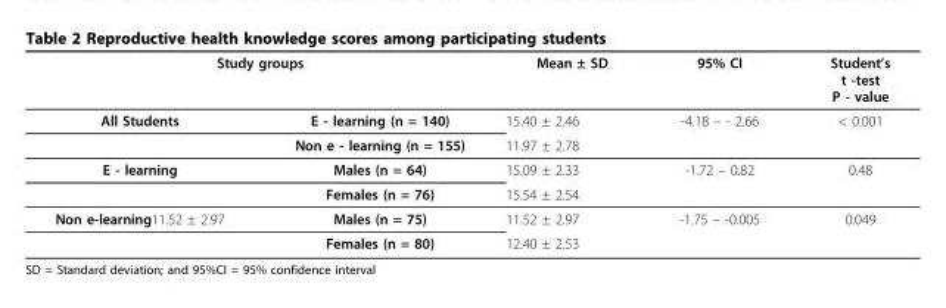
<table><thead><tr><td colspan="2">Study groups</td><td rowspan="2">Mean ± SD 15.40 ± 2.46</td><td rowspan="2">95% CI -4.18 – - 2.66</td><td rowspan="2">Student’s t -test P - value &lt; 0.001</td></tr><tr><td>All Students</td><td>E - learning (n = 140)</td></tr></thead><tbody><tr><td></td><td>Non e - learning (n = 155)</td><td>11.97 ± 2.78</td><td></td><td></td></tr><tr><td rowspan="2">E - learning</td><td>Males (n = 64)</td><td>15.09 ± 2.33</td><td>-1.72 – 0.82</td><td>0.48</td></tr><tr><td>Females (n = 76)</td><td>15.54 ± 2.54</td><td></td><td></td></tr><tr><td rowspan="2">Non e-learning11.52 ± 2.97</td><td>Males (n = 75)</td><td>11.52 ± 2.97</td><td>-1.75 – -0.005</td><td>0.049</td></tr><tr><td>Females (n = 80)</td><td>12.40 ± 2.53</td><td></td><td></td></tr></tbody></table>